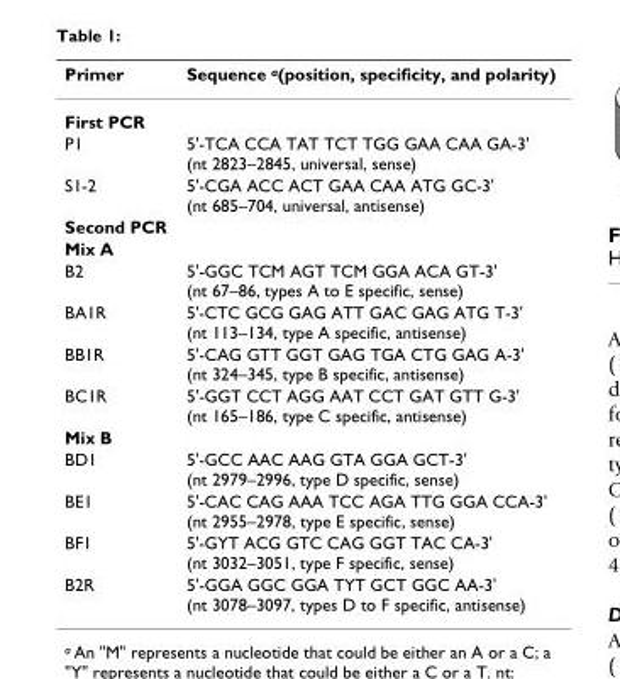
<table><thead><tr><td>Primer</td><td>Sequence <sup>a</sup>(position, specificity, and polarity)</td></tr></thead><tbody><tr><td colspan="2">First PCR</td></tr><tr><td>P1</td><td>5&#x27;-TCA CCA TAT TCT TGG GAA CAA GA-3&#x27; (nt 2823–2845, universal, sense)</td></tr><tr><td>S1-2</td><td>5&#x27;-CGA ACC ACT GAA CAA ATG GC-3&#x27; (nt 685–704, universal, antisense)</td></tr><tr><td colspan="2">Second PCR</td></tr><tr><td colspan="2">Mix A</td></tr><tr><td>B2</td><td>5&#x27;-GGC TCM AGT TCM GGA ACA GT-3&#x27; (nt 67–86, types A to E specific, sense)</td></tr><tr><td>BA1R</td><td>5&#x27;-CTC GCG GAG ATT GAC GAG ATG T-3&#x27; (nt 113–134, type A specific, antisense)</td></tr><tr><td>BB1R</td><td>5&#x27;-CAG GTT GGT GAG TGA CTG GAG A-3&#x27; (nt 324–345, type B specific, antisense)</td></tr><tr><td>BC1R</td><td>5&#x27;-GGT CCT AGG AAT CCT GAT GTT G-3&#x27; (nt 165–186, type C specific, antisense)</td></tr><tr><td colspan="2">Mix B</td></tr><tr><td>BD1</td><td>5&#x27;-GCC AAC AAG GTA GGA GCT-3&#x27; (nt 2979–2996, type D specific, sense)</td></tr><tr><td>BE1</td><td>5&#x27;-CAC CAG AAA TCC AGA TTG GGA CCA-3&#x27; (nt 2955–2978, type E specific, sense)</td></tr><tr><td>BF1</td><td>5&#x27;-GYT ACG GTC CAG GGT TAC CA-3&#x27; (nt 3032–3051, type F specific, sense)</td></tr><tr><td>B2R</td><td>5&#x27;-GGA GGC GGA TYT GCT GGC AA-3&#x27; (nt 3078–3097, types D to F specific, antisense)</td></tr></tbody></table>